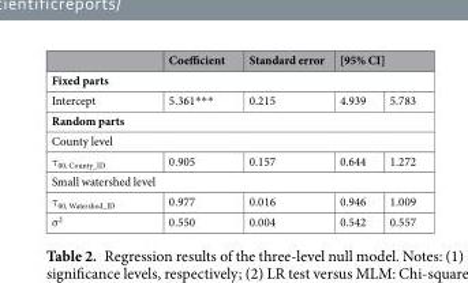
<table><thead><tr><td></td><td>Coefficient</td><td>Standard error</td><td colspan="2">[95% CI]</td></tr><tr><td colspan="5">Fixed parts</td></tr><tr><td>Intercept</td><td>5.361***</td><td>0.215</td><td>4.939</td><td>5.783</td></tr></thead><tbody><tr><td colspan="5">Random parts</td></tr><tr><td colspan="5">County level</td></tr><tr><td>τ<sub>00, County_ID</sub></td><td>0.905</td><td>0.157</td><td>0.644</td><td>1.272</td></tr><tr><td colspan="5">Small watershed level</td></tr><tr><td>τ<sub>00, Watershed_ID</sub></td><td>0.977</td><td>0.016</td><td>0.946</td><td>1.009</td></tr><tr><td>σ<sup>2</sup></td><td>0.550</td><td>0.004</td><td>0.542</td><td>0.557</td></tr></tbody></table>